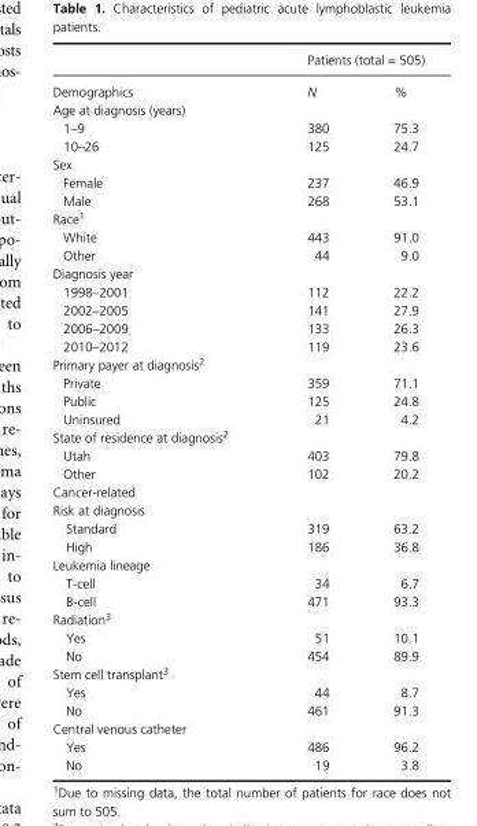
<table><thead><tr><td rowspan="2">Demographics</td><td colspan="2">Patients (total = 505)</td></tr><tr><td>N</td><td>%</td></tr></thead><tbody><tr><td colspan="3">Age at diagnosis (years)</td></tr><tr><td>1–9</td><td>380</td><td>75.3</td></tr><tr><td>10–26</td><td>125</td><td>24.7</td></tr><tr><td colspan="3">Sex</td></tr><tr><td>Female</td><td>237</td><td>46.9</td></tr><tr><td>Male</td><td>268</td><td>53.1</td></tr><tr><td colspan="3">Race1</td></tr><tr><td>White</td><td>443</td><td>91.0</td></tr><tr><td>Other</td><td>44</td><td>9.0</td></tr><tr><td colspan="3">Diagnosis year</td></tr><tr><td>1998–2001</td><td>112</td><td>22.2</td></tr><tr><td>2002–2005</td><td>141</td><td>27.9</td></tr><tr><td>2006–2009</td><td>133</td><td>26.3</td></tr><tr><td>2010–2012</td><td>119</td><td>23.6</td></tr><tr><td colspan="3">Primary payer at diagnosis2</td></tr><tr><td>Private</td><td>359</td><td>71.1</td></tr><tr><td>Public</td><td>125</td><td>24.8</td></tr><tr><td>Uninsured</td><td>21</td><td>4.2</td></tr><tr><td colspan="3">State of residence at diagnosis2</td></tr><tr><td>Utah</td><td>403</td><td>79.8</td></tr><tr><td>Other</td><td>102</td><td>20.2</td></tr><tr><td colspan="3">Cancer- related</td></tr><tr><td colspan="3">Risk at diagnosis</td></tr><tr><td>Standard</td><td>319</td><td>63.2</td></tr><tr><td>High</td><td>186</td><td>36.8</td></tr><tr><td colspan="3">Leukemia lineage</td></tr><tr><td>T- cell</td><td>34</td><td>6.7</td></tr><tr><td>B- cell</td><td>471</td><td>93.3</td></tr><tr><td colspan="3">Radiation3</td></tr><tr><td>Yes</td><td>51</td><td>10.1</td></tr><tr><td>No</td><td>454</td><td>89.9</td></tr><tr><td colspan="3">Stem cell transplant3</td></tr><tr><td>Yes</td><td>44</td><td>8.7</td></tr><tr><td>No</td><td>461</td><td>91.3</td></tr><tr><td colspan="3">Central venous catheter</td></tr><tr><td>Yes</td><td>486</td><td>96.2</td></tr><tr><td>No</td><td>19</td><td>3.8</td></tr></tbody></table>